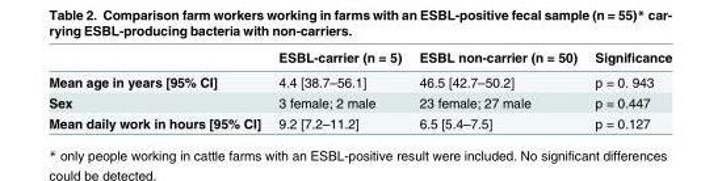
<table><thead><tr><td></td><td>ESBL-carrier (n = 5)</td><td>ESBL non-carrier (n = 50)</td><td>Significance</td></tr></thead><tbody><tr><td>Mean age in years [95% CI]</td><td>4.4 [38.7–56.1]</td><td>46.5 [42.7–50.2]</td><td>p = 0. 943</td></tr><tr><td>Sex</td><td>3 female; 2 male</td><td>23 female; 27 male</td><td>p = 0.447</td></tr><tr><td>Mean daily work in hours [95% CI]</td><td>9.2 [7.2–11.2]</td><td>6.5 [5.4–7.5]</td><td>p = 0.127</td></tr></tbody></table>